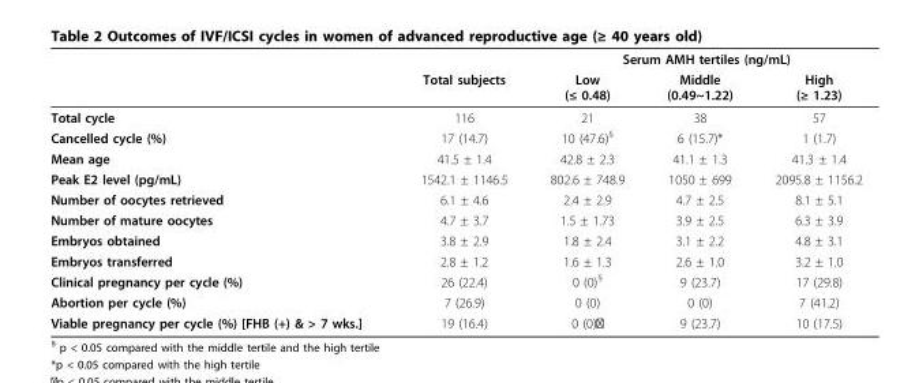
<table><thead><tr><td rowspan="2"></td><td rowspan="2">Total subjects</td><td colspan="3">Serum AMH tertiles (ng/mL)</td></tr><tr><td>Low (≤ 0.48)</td><td>Middle (0.49~1.22)</td><td>High (≥ 1.23)</td></tr></thead><tbody><tr><td>Total cycle</td><td>116</td><td>21</td><td>38</td><td>57</td></tr><tr><td>Cancelled cycle (%)</td><td>17 (14.7)</td><td>10 (47.6)<sup>§</sup></td><td>6 (15.7)*</td><td>1 (1.7)</td></tr><tr><td>Mean age</td><td>41.5 ± 1.4</td><td>42.8 ± 2.3</td><td>41.1 ± 1.3</td><td>41.3 ± 1.4</td></tr><tr><td>Peak E2 level (pg/mL)</td><td>1542.1 ± 1146.5</td><td>802.6 ± 748.9</td><td>1050 ± 699</td><td>2095.8 ± 1156.2</td></tr><tr><td>Number of oocytes retrieved</td><td>6.1 ± 4.6</td><td>2.4 ± 2.9</td><td>4.7 ± 2.5</td><td>8.1 ± 5.1</td></tr><tr><td>Number of mature oocytes</td><td>4.7 ± 3.7</td><td>1.5 ± 1.73</td><td>3.9 ± 2.5</td><td>6.3 ± 3.9</td></tr><tr><td>Embryos obtained</td><td>3.8 ± 2.9</td><td>1.8 ± 2.4</td><td>3.1 ± 2.2</td><td>4.8 ± 3.1</td></tr><tr><td>Embryos transferred</td><td>2.8 ± 1.2</td><td>1.6 ± 1.3</td><td>2.6 ± 1.0</td><td>3.2 ± 1.0</td></tr><tr><td>Clinical pregnancy per cycle (%)</td><td>26 (22.4)</td><td>0 (0)<sup>§</sup></td><td>9 (23.7)</td><td>17 (29.8)</td></tr><tr><td>Abortion per cycle (%)</td><td>7 (26.9)</td><td>0 (0)</td><td>0 (0)</td><td>7 (41.2)</td></tr><tr><td>Viable pregnancy per cycle (%) [FHB (+) &amp; &gt; 7 wks.]</td><td>19 (16.4)</td><td>0 (0)﹟</td><td>9 (23.7)</td><td>10 (17.5)</td></tr></tbody></table>